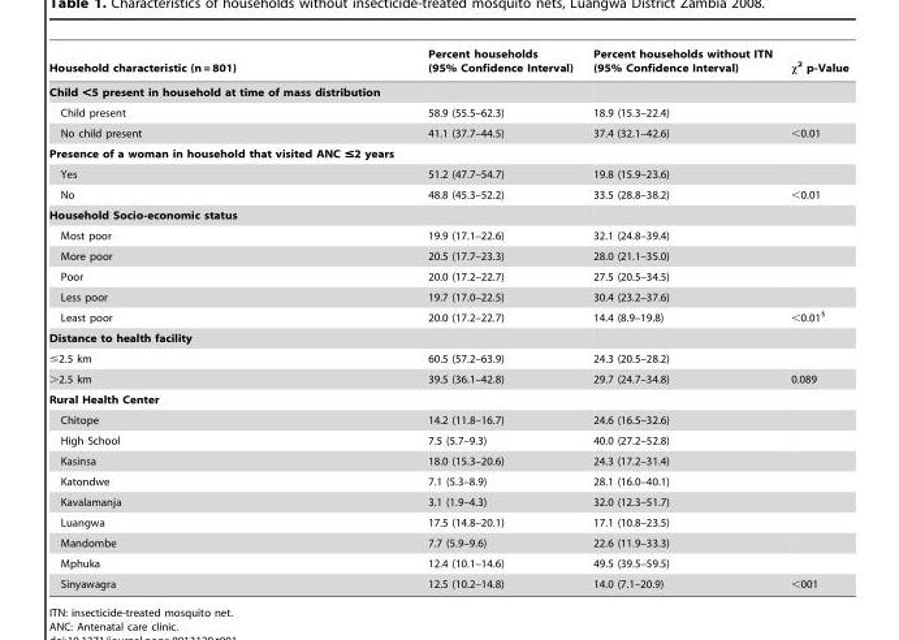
<table><thead><tr><td>Household characteristic (n = 801)</td><td>Percent households (95% Confidence Interval)</td><td>Percent households without ITN (95% Confidence Interval)</td><td>χ<sup>2</sup> p-Value</td></tr></thead><tbody><tr><td colspan="4">Child &lt;5 present in household at time of mass distribution</td></tr><tr><td>Child present</td><td>58.9 (55.5–62.3)</td><td>18.9 (15.3–22.4)</td><td></td></tr><tr><td>No child present</td><td>41.1 (37.7–44.5)</td><td>37.4 (32.1–42.6)</td><td>&lt;0.01</td></tr><tr><td colspan="4">Presence of a woman in household that visited ANC ≤2 years</td></tr><tr><td>Yes</td><td>51.2 (47.7–54.7)</td><td>19.8 (15.9–23.6)</td><td></td></tr><tr><td>No</td><td>48.8 (45.3–52.2)</td><td>33.5 (28.8–38.2)</td><td>&lt;0.01</td></tr><tr><td colspan="4">Household Socio-economic status</td></tr><tr><td>Most poor</td><td>19.9 (17.1–22.6)</td><td>32.1 (24.8–39.4)</td><td></td></tr><tr><td>More poor</td><td>20.5 (17.7–23.3)</td><td>28.0 (21.1–35.0)</td><td></td></tr><tr><td>Poor</td><td>20.0 (17.2–22.7)</td><td>27.5 (20.5–34.5)</td><td></td></tr><tr><td>Less poor</td><td>19.7 (17.0–22.5)</td><td>30.4 (23.2–37.6)</td><td></td></tr><tr><td>Least poor</td><td>20.0 (17.2–22.7)</td><td>14.4 (8.9–19.8)</td><td>&lt;0.01<sup>§</sup></td></tr><tr><td colspan="4">Distance to health facility</td></tr><tr><td>≤2.5 km</td><td>60.5 (57.2–63.9)</td><td>24.3 (20.5–28.2)</td><td></td></tr><tr><td>&gt;2.5 km</td><td>39.5 (36.1–42.8)</td><td>29.7 (24.7–34.8)</td><td>0.089</td></tr><tr><td colspan="4">Rural Health Center</td></tr><tr><td>Chitope</td><td>14.2 (11.8–16.7)</td><td>24.6 (16.5–32.6)</td><td></td></tr><tr><td>High School</td><td>7.5 (5.7–9.3)</td><td>40.0 (27.2–52.8)</td><td></td></tr><tr><td>Kasinsa</td><td>18.0 (15.3–20.6)</td><td>24.3 (17.2–31.4)</td><td></td></tr><tr><td>Katondwe</td><td>7.1 (5.3–8.9)</td><td>28.1 (16.0–40.1)</td><td></td></tr><tr><td>Kavalamanja</td><td>3.1 (1.9–4.3)</td><td>32.0 (12.3–51.7)</td><td></td></tr><tr><td>Luangwa</td><td>17.5 (14.8–20.1)</td><td>17.1 (10.8–23.5)</td><td></td></tr><tr><td>Mandombe</td><td>7.7 (5.9–9.6)</td><td>22.6 (11.9–33.3)</td><td></td></tr><tr><td>Mphuka</td><td>12.4 (10.1–14.6)</td><td>49.5 (39.5–59.5)</td><td></td></tr><tr><td>Sinyawagra</td><td>12.5 (10.2–14.8)</td><td>14.0 (7.1–20.9)</td><td>&lt;001</td></tr></tbody></table>